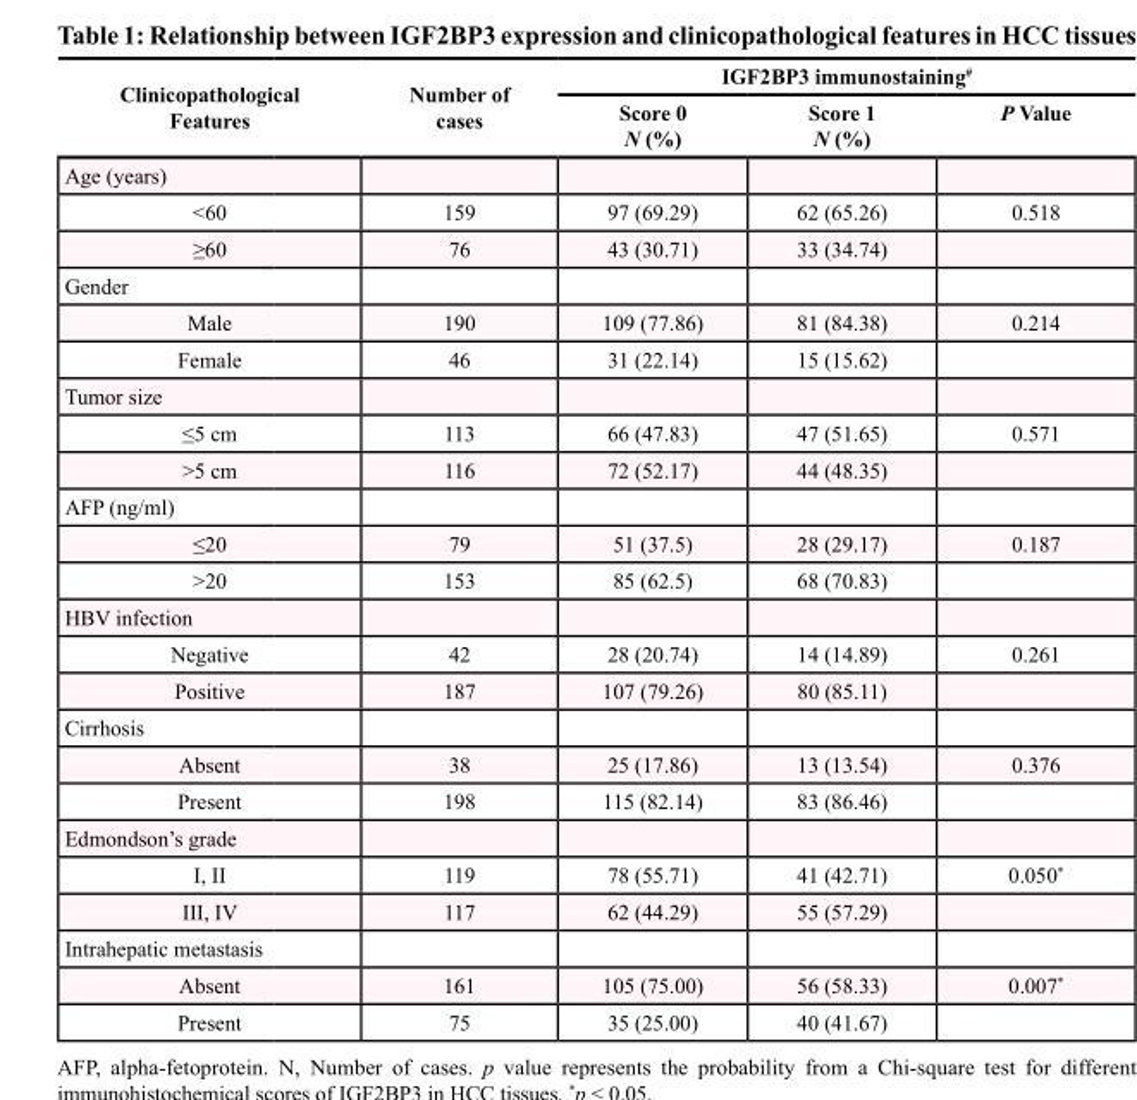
<table><thead><tr><td rowspan="2">Clinicopathological Features</td><td rowspan="2">Number of cases</td><td colspan="3">IGF2BP3 immunostaining<sup>#</sup></td></tr><tr><td>Score 0 N (%)</td><td>Score 1 N (%)</td><td>P Value</td></tr></thead><tbody><tr><td colspan="5">Age (years)</td></tr><tr><td>&lt;60</td><td>159</td><td>97 (69.29)</td><td>62 (65.26)</td><td>0.518</td></tr><tr><td>≥60</td><td>76</td><td>43 (30.71)</td><td>33 (34.74)</td><td></td></tr><tr><td colspan="5">Gender</td></tr><tr><td>Male</td><td>190</td><td>109 (77.86)</td><td>81 (84.38)</td><td>0.214</td></tr><tr><td>Female</td><td>46</td><td>31 (22.14)</td><td>15 (15.62)</td><td></td></tr><tr><td colspan="5">Tumor size</td></tr><tr><td>≤5 cm</td><td>113</td><td>66 (47.83)</td><td>47 (51.65)</td><td>0.571</td></tr><tr><td>&gt;5 cm</td><td>116</td><td>72 (52.17)</td><td>44 (48.35)</td><td></td></tr><tr><td colspan="5">AFP (ng/ml)</td></tr><tr><td>≤20</td><td>79</td><td>51 (37.5)</td><td>28 (29.17)</td><td>0.187</td></tr><tr><td>&gt;20</td><td>153</td><td>85 (62.5)</td><td>68 (70.83)</td><td></td></tr><tr><td colspan="5">HBV infection</td></tr><tr><td>Negative</td><td>42</td><td>28 (20.74)</td><td>14 (14.89)</td><td>0.261</td></tr><tr><td>Positive</td><td>187</td><td>107 (79.26)</td><td>80 (85.11)</td><td></td></tr><tr><td colspan="5">Cirrhosis</td></tr><tr><td>Absent</td><td>38</td><td>25 (17.86)</td><td>13 (13.54)</td><td>0.376</td></tr><tr><td>Present</td><td>198</td><td>115 (82.14)</td><td>83 (86.46)</td><td></td></tr><tr><td colspan="5">Edmondson’s grade</td></tr><tr><td>I, II</td><td>119</td><td>78 (55.71)</td><td>41 (42.71)</td><td>0.050*</td></tr><tr><td>III, IV</td><td>117</td><td>62 (44.29)</td><td>55 (57.29)</td><td></td></tr><tr><td colspan="5">Intrahepatic metastasis</td></tr><tr><td>Absent</td><td>161</td><td>105 (75.00)</td><td>56 (58.33)</td><td>0.007*</td></tr><tr><td>Present</td><td>75</td><td>35 (25.00)</td><td>40 (41.67)</td><td></td></tr></tbody></table>